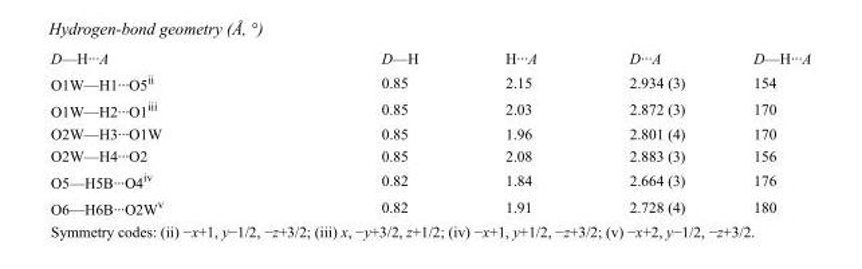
<table><tbody><tr><td>D—H···A</td><td>D—H</td><td>H···A</td><td>D···A</td><td>D—H···A</td></tr><tr><td>O1W—H1···O5<sup>ii</sup></td><td>0.85</td><td>2.15</td><td>2.934 (3)</td><td>154</td></tr><tr><td>O1W—H2···O1<sup>iii</sup></td><td>0.85</td><td>2.03</td><td>2.872 (3)</td><td>170</td></tr><tr><td>O2W—H3···O1W</td><td>0.85</td><td>1.96</td><td>2.801 (4)</td><td>170</td></tr><tr><td>O2W—H4···O2</td><td>0.85</td><td>2.08</td><td>2.883 (3)</td><td>156</td></tr><tr><td>O5—H5B···O4<sup>iv</sup></td><td>0.82</td><td>1.84</td><td>2.664 (3)</td><td>176</td></tr><tr><td>O6—H6B···O2W<sup>v</sup></td><td>0.82</td><td>1.91</td><td>2.728 (4)</td><td>180</td></tr></tbody></table>